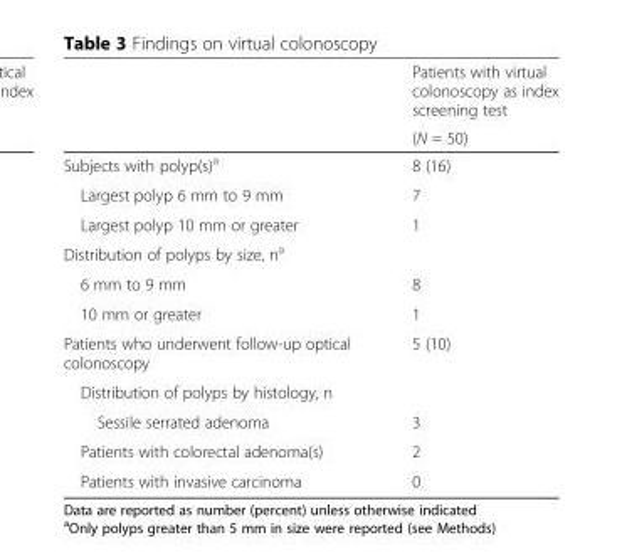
<table><thead><tr><td rowspan="2"></td><td rowspan="2">Patients with virtual colonoscopy as index screening test (N = 50)</td></tr><tr></tr></thead><tbody><tr><td>Subjects with polyp(s)<sup>a</sup></td><td>8 (16)</td></tr><tr><td>Largest polyp 6 mm to 9 mm</td><td>7</td></tr><tr><td>Largest polyp 10 mm or greater</td><td>1</td></tr><tr><td colspan="2">Distribution of polyps by size, n<sup>a</sup></td></tr><tr><td>6 mm to 9 mm</td><td>8</td></tr><tr><td>10 mm or greater</td><td>1</td></tr><tr><td>Patients who underwent follow-up optical colonoscopy</td><td>5 (10)</td></tr><tr><td colspan="2">Distribution of polyps by histology, n</td></tr><tr><td>Sessile serrated adenoma</td><td>3</td></tr><tr><td>Patients with colorectal adenoma(s)</td><td>2</td></tr><tr><td>Patients with invasive carcinoma</td><td>0</td></tr></tbody></table>